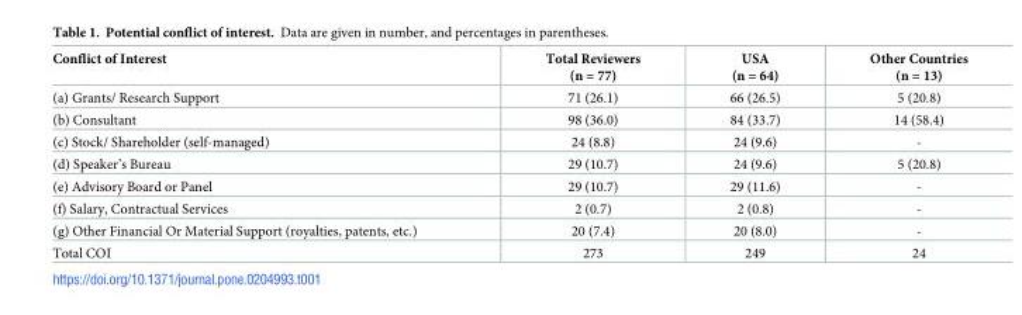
<table><thead><tr><td>Conflict of Interest</td><td>Total Reviewers (n = 77)</td><td>USA (n = 64)</td><td>Other Countries (n = 13)</td></tr></thead><tbody><tr><td>(a) Grants/ Research Support</td><td>71 (26.1)</td><td>66 (26.5)</td><td>5 (20.8)</td></tr><tr><td>(b) Consultant</td><td>98 (36.0)</td><td>84 (33.7)</td><td>14 (58.4)</td></tr><tr><td>(c) Stock/ Shareholder (self-managed)</td><td>24 (8.8)</td><td>24 (9.6)</td><td>-</td></tr><tr><td>(d) Speaker’s Bureau</td><td>29 (10.7)</td><td>24 (9.6)</td><td>5 (20.8)</td></tr><tr><td>(e) Advisory Board or Panel</td><td>29 (10.7)</td><td>29 (11.6)</td><td>-</td></tr><tr><td>(f) Salary, Contractual Services</td><td>2 (0.7)</td><td>2 (0.8)</td><td>-</td></tr><tr><td>(g) Other Financial Or Material Support (royalties, patents, etc.)</td><td>20 (7.4)</td><td>20 (8.0)</td><td>-</td></tr><tr><td>Total COI</td><td>273</td><td>249</td><td>24</td></tr></tbody></table>